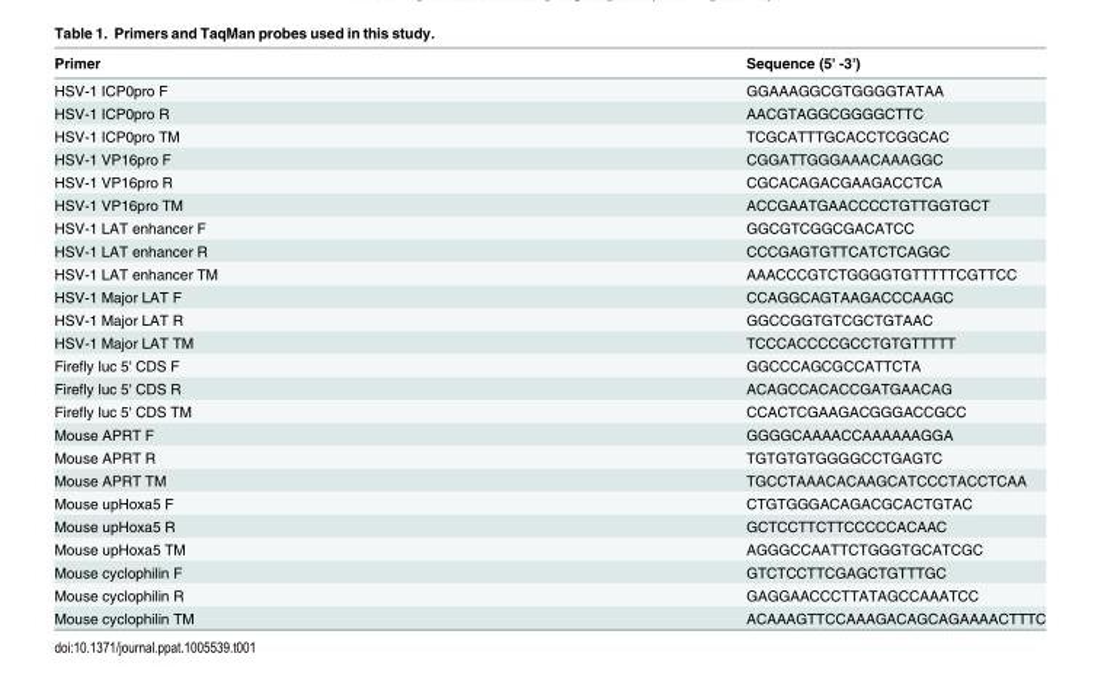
<table><thead><tr><td>Primer</td><td>Sequence (5&#x27; -3&#x27;)</td></tr></thead><tbody><tr><td>HSV-1 ICP0pro F</td><td>GGAAAGGCGTGGGGTATAA</td></tr><tr><td>HSV-1 ICP0pro R</td><td>AACGTAGGCGGGGCTTC</td></tr><tr><td>HSV-1 ICP0pro TM</td><td>TCGCATTTGCACCTCGGCAC</td></tr><tr><td>HSV-1 VP16pro F</td><td>CGGATTGGGAAACAAAGGC</td></tr><tr><td>HSV-1 VP16pro R</td><td>CGCACAGACGAAGACCTCA</td></tr><tr><td>HSV-1 VP16pro TM</td><td>ACCGAATGAACCCCTGTTGGTGCT</td></tr><tr><td>HSV-1 LAT enhancer F</td><td>GGCGTCGGCGACATCC</td></tr><tr><td>HSV-1 LAT enhancer R</td><td>CCCGAGTGTTCATCTCAGGC</td></tr><tr><td>HSV-1 LAT enhancer TM</td><td>AAACCCGTCTGGGGTGTTTTTCGTTCC</td></tr><tr><td>HSV-1 Major LAT F</td><td>CCAGGCAGTAAGACCCAAGC</td></tr><tr><td>HSV-1 Major LAT R</td><td>GGCCGGTGTCGCTGTAAC</td></tr><tr><td>HSV-1 Major LAT TM</td><td>TCCCACCCCGCCTGTGTTTTT</td></tr><tr><td>Firefly luc 5&#x27; CDS F</td><td>GGCCCAGCGCCATTCTA</td></tr><tr><td>Firefly luc 5&#x27; CDS R</td><td>ACAGCCACACCGATGAACAG</td></tr><tr><td>Firefly luc 5&#x27; CDS TM</td><td>CCACTCGAAGACGGGACCGCC</td></tr><tr><td>Mouse APRT F</td><td>GGGGCAAAACCAAAAAAGGA</td></tr><tr><td>Mouse APRT R</td><td>TGTGTGTGGGGCCTGAGTC</td></tr><tr><td>Mouse APRT TM</td><td>TGCCTAAACACAAGCATCCCTACCTCAA</td></tr><tr><td>Mouse upHoxa5 F</td><td>CTGTGGGACAGACGCACTGTAC</td></tr><tr><td>Mouse upHoxa5 R</td><td>GCTCCTTCTTCCCCCACAAC</td></tr><tr><td>Mouse upHoxa5 TM</td><td>AGGGCCAATTCTGGGTGCATCGC</td></tr><tr><td>Mouse cyclophilin F</td><td>GTCTCCTTCGAGCTGTTTGC</td></tr><tr><td>Mouse cyclophilin R</td><td>GAGGAACCCTTATAGCCAAATCC</td></tr><tr><td>Mouse cyclophilin TM</td><td>ACAAAGTTCCAAAGACAGCAGAAAACTTTC</td></tr></tbody></table>